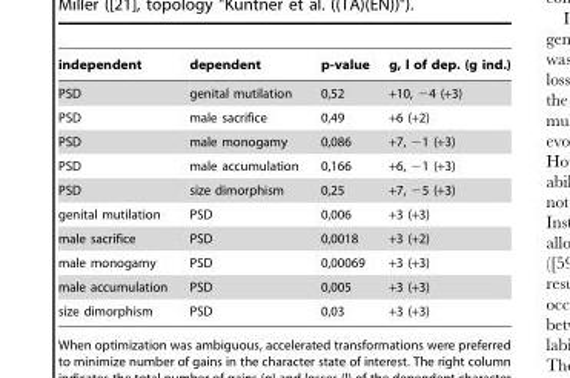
<table><thead><tr><td>independent</td><td>dependent</td><td>p-value</td><td>g, l of dep. (g ind.)</td></tr></thead><tbody><tr><td>PSD</td><td>genital mutilation</td><td>0,52</td><td>+10, −4 (+3)</td></tr><tr><td>PSD</td><td>male sacrifice</td><td>0,49</td><td>+6 (+2)</td></tr><tr><td>PSD</td><td>male monogamy</td><td>0,086</td><td>+7, −1 (+3)</td></tr><tr><td>PSD</td><td>male accumulation</td><td>0,166</td><td>+6, −1 (+3)</td></tr><tr><td>PSD</td><td>size dimorphism</td><td>0,25</td><td>+7, −5 (+3)</td></tr><tr><td>genital mutilation</td><td>PSD</td><td>0,006</td><td>+3 (+3)</td></tr><tr><td>male sacrifice</td><td>PSD</td><td>0,0018</td><td>+3 (+2)</td></tr><tr><td>male monogamy</td><td>PSD</td><td>0,00069</td><td>+3 (+3)</td></tr><tr><td>male accumulation</td><td>PSD</td><td>0,005</td><td>+3 (+3)</td></tr><tr><td>size dimorphism</td><td>PSD</td><td>0,03</td><td>+3 (+3)</td></tr></tbody></table>